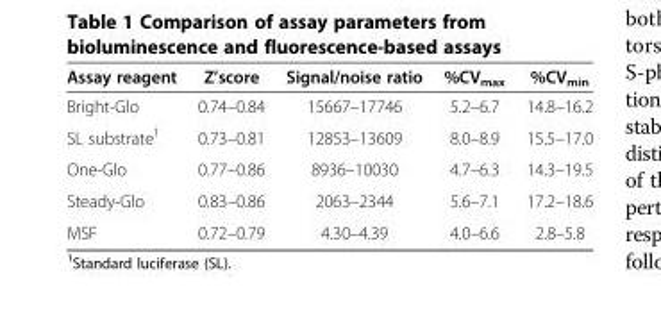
<table><thead><tr><td>Assay reagent</td><td>Z’score</td><td>Signal/noise ratio</td><td>%CV<sub>max</sub></td><td>%CV<sub>min</sub></td></tr></thead><tbody><tr><td>Bright-Glo</td><td>0.74–0.84</td><td>15667–17746</td><td>5.2–6.7</td><td>14.8–16.2</td></tr><tr><td>SL substrate<sup>1</sup></td><td>0.73–0.81</td><td>12853–13609</td><td>8.0–8.9</td><td>15.5–17.0</td></tr><tr><td>One-Glo</td><td>0.77–0.86</td><td>8936–10030</td><td>4.7–6.3</td><td>14.3–19.5</td></tr><tr><td>Steady-Glo</td><td>0.83–0.86</td><td>2063–2344</td><td>5.6–7.1</td><td>17.2–18.6</td></tr><tr><td>MSF</td><td>0.72–0.79</td><td>4.30–4.39</td><td>4.0–6.6</td><td>2.8–5.8</td></tr></tbody></table>